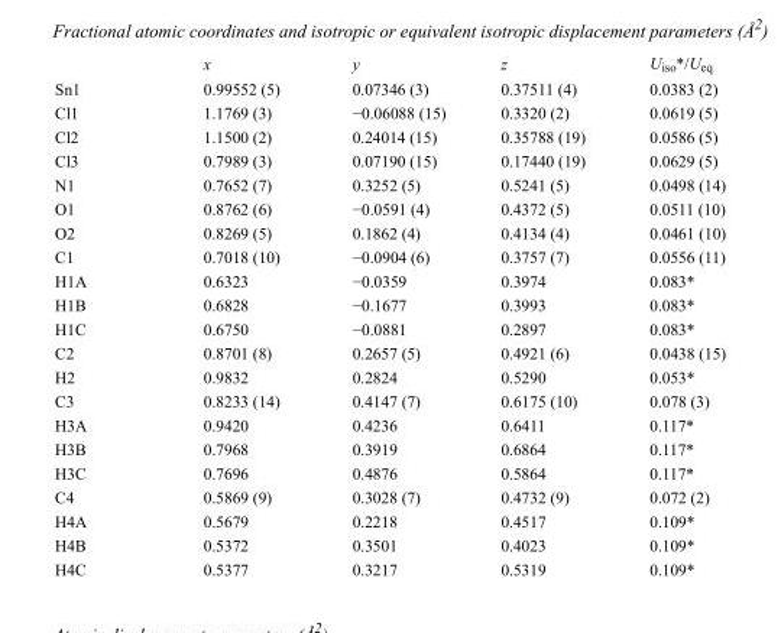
<table><thead><tr><td></td><td>x</td><td>y</td><td>z</td><td>U<sub>iso</sub>*/U<sub>eq</sub></td></tr></thead><tbody><tr><td>Sn1</td><td>0.99552 (5)</td><td>0.07346 (3)</td><td>0.37511 (4)</td><td>0.0383 (2)</td></tr><tr><td>Cl1</td><td>1.1769 (3)</td><td>−0.06088 (15)</td><td>0.3320 (2)</td><td>0.0619 (5)</td></tr><tr><td>Cl2</td><td>1.1500 (2)</td><td>0.24014 (15)</td><td>0.35788 (19)</td><td>0.0586 (5)</td></tr><tr><td>Cl3</td><td>0.7989 (3)</td><td>0.07190 (15)</td><td>0.17440 (19)</td><td>0.0629 (5)</td></tr><tr><td>N1</td><td>0.7652 (7)</td><td>0.3252 (5)</td><td>0.5241 (5)</td><td>0.0498 (14)</td></tr><tr><td>O1</td><td>0.8762 (6)</td><td>−0.0591 (4)</td><td>0.4372 (5)</td><td>0.0511 (10)</td></tr><tr><td>O2</td><td>0.8269 (5)</td><td>0.1862 (4)</td><td>0.4134 (4)</td><td>0.0461 (10)</td></tr><tr><td>C1</td><td>0.7018 (10)</td><td>−0.0904 (6)</td><td>0.3757 (7)</td><td>0.0556 (11)</td></tr><tr><td>H1A</td><td>0.6323</td><td>−0.0359</td><td>0.3974</td><td>0.083*</td></tr><tr><td>H1B</td><td>0.6828</td><td>−0.1677</td><td>0.3993</td><td>0.083*</td></tr><tr><td>H1C</td><td>0.6750</td><td>−0.0881</td><td>0.2897</td><td>0.083*</td></tr><tr><td>C2</td><td>0.8701 (8)</td><td>0.2657 (5)</td><td>0.4921 (6)</td><td>0.0438 (15)</td></tr><tr><td>H2</td><td>0.9832</td><td>0.2824</td><td>0.5290</td><td>0.053*</td></tr><tr><td>C3</td><td>0.8233 (14)</td><td>0.4147 (7)</td><td>0.6175 (10)</td><td>0.078 (3)</td></tr><tr><td>H3A</td><td>0.9420</td><td>0.4236</td><td>0.6411</td><td>0.117*</td></tr><tr><td>H3B</td><td>0.7968</td><td>0.3919</td><td>0.6864</td><td>0.117*</td></tr><tr><td>H3C</td><td>0.7696</td><td>0.4876</td><td>0.5864</td><td>0.117*</td></tr><tr><td>C4</td><td>0.5869 (9)</td><td>0.3028 (7)</td><td>0.4732 (9)</td><td>0.072 (2)</td></tr><tr><td>H4A</td><td>0.5679</td><td>0.2218</td><td>0.4517</td><td>0.109*</td></tr><tr><td>H4B</td><td>0.5372</td><td>0.3501</td><td>0.4023</td><td>0.109*</td></tr><tr><td>H4C</td><td>0.5377</td><td>0.3217</td><td>0.5319</td><td>0.109*</td></tr></tbody></table>